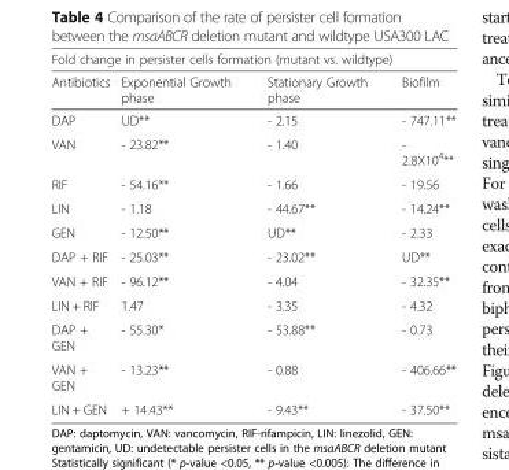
<table><thead><tr><td colspan="4">Fold change in persister cells formation (mutant vs. wildtype)</td></tr><tr><td>Antibiotics</td><td>Exponential Growth phase</td><td>Stationary Growth phase</td><td>Biofilm</td></tr></thead><tbody><tr><td>DAP</td><td>UD**</td><td>- 2.15</td><td>- 747.11**</td></tr><tr><td>VAN</td><td>- 23.82**</td><td>- 1.40</td><td>- 2.8X10<sup>4</sup>**</td></tr><tr><td>RIF</td><td>- 54.16**</td><td>- 1.66</td><td>- 19.56</td></tr><tr><td>LIN</td><td>- 1.18</td><td>- 44.67**</td><td>- 14.24**</td></tr><tr><td>GEN</td><td>- 12.50**</td><td>UD**</td><td>- 2.33</td></tr><tr><td>DAP + RIF</td><td>- 25.03**</td><td>- 23.02**</td><td>UD**</td></tr><tr><td>VAN + RIF</td><td>- 96.12**</td><td>- 4.04</td><td>- 32.35**</td></tr><tr><td>LIN + RIF</td><td>1.47</td><td>- 3.35</td><td>- 4.32</td></tr><tr><td>DAP + GEN</td><td>- 55.30*</td><td>- 53.88**</td><td>- 0.73</td></tr><tr><td>VAN + GEN</td><td>- 13.23**</td><td>- 0.88</td><td>- 406.66**</td></tr><tr><td>LIN + GEN</td><td>+ 14.43**</td><td>- 9.43**</td><td>- 37.50**</td></tr></tbody></table>